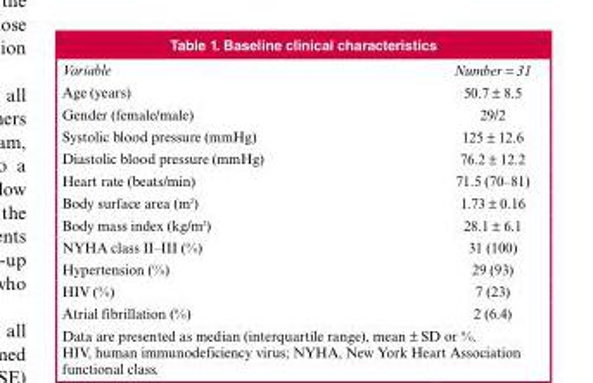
<table><thead><tr><td>Variable</td><td>Number = 31</td></tr></thead><tbody><tr><td>Age (years)</td><td>50.7 ± 8.5</td></tr><tr><td>Gender (female/male)</td><td>29/2</td></tr><tr><td>Systolic blood pressure (mmHg)</td><td>125 ± 12.6</td></tr><tr><td>Diastolic blood pressure (mmHg)</td><td>76.2 ± 12.2</td></tr><tr><td>Heart rate (beats/min)</td><td>71.5 (70–81)</td></tr><tr><td>Body surface area (m<sup>2</sup>)</td><td>1.73 ± 0.16</td></tr><tr><td>Body mass index (kg/m<sup>2</sup>)</td><td>28.1 ± 6.1</td></tr><tr><td>NYHA class II–III (%)</td><td>31 (100)</td></tr><tr><td>Hypertension (%)</td><td>29 (93)</td></tr><tr><td>HIV (%)</td><td>7 (23)</td></tr><tr><td>Atrial fibrillation (%)</td><td>2 (6.4)</td></tr></tbody></table>